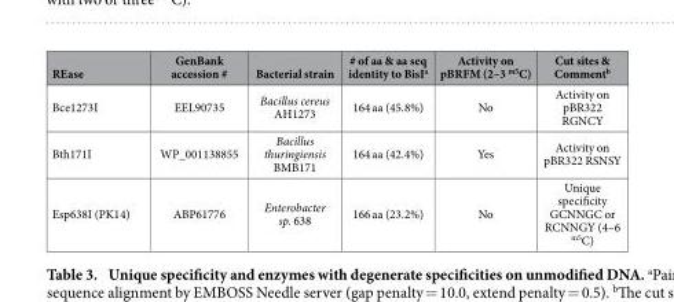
<table><thead><tr><td>REase</td><td>GenBank accession #</td><td>Bacterial strain</td><td># of aa &amp; aa seq identity to BisI<sup>a</sup></td><td>Activity on pBRFM (2–3 <sup>m5</sup>C)</td><td>Cut sites &amp; Comment<sup>b</sup></td></tr></thead><tbody><tr><td>Bce1273I</td><td>EEL90735</td><td>Bacillus cereus AH1273</td><td>164 aa (45.8%)</td><td>No</td><td>Activity on pBR322 RGNCY</td></tr><tr><td>Bth171I</td><td>WP_001138855</td><td>Bacillus thuringiensis BMB171</td><td>164 aa (42.4%)</td><td>Yes</td><td>Activity on pBR322 RSNSY</td></tr><tr><td>Esp638I (PK14)</td><td>ABP61776</td><td>Enterobacter sp. 638</td><td>166 aa (23.2%)</td><td>No</td><td>Unique specificity GCNNGC or RCNNGY (4–6 <sup>m5</sup>C)</td></tr></tbody></table>